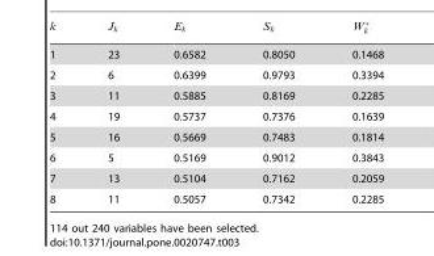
<table><tbody><tr><td>1</td><td>23</td><td>0.6582</td><td>0.8050</td><td>0.1468</td></tr><tr><td>2</td><td>6</td><td>0.6399</td><td>0.9793</td><td>0.3394</td></tr><tr><td>3</td><td>11</td><td>0.5885</td><td>0.8169</td><td>0.2285</td></tr><tr><td>4</td><td>19</td><td>0.5737</td><td>0.7376</td><td>0.1639</td></tr><tr><td>5</td><td>16</td><td>0.5669</td><td>0.7483</td><td>0.1814</td></tr><tr><td>6</td><td>5</td><td>0.5169</td><td>0.9012</td><td>0.3843</td></tr><tr><td>7</td><td>13</td><td>0.5104</td><td>0.7162</td><td>0.2059</td></tr><tr><td>8</td><td>11</td><td>0.5057</td><td>0.7342</td><td>0.2285</td></tr></tbody></table>